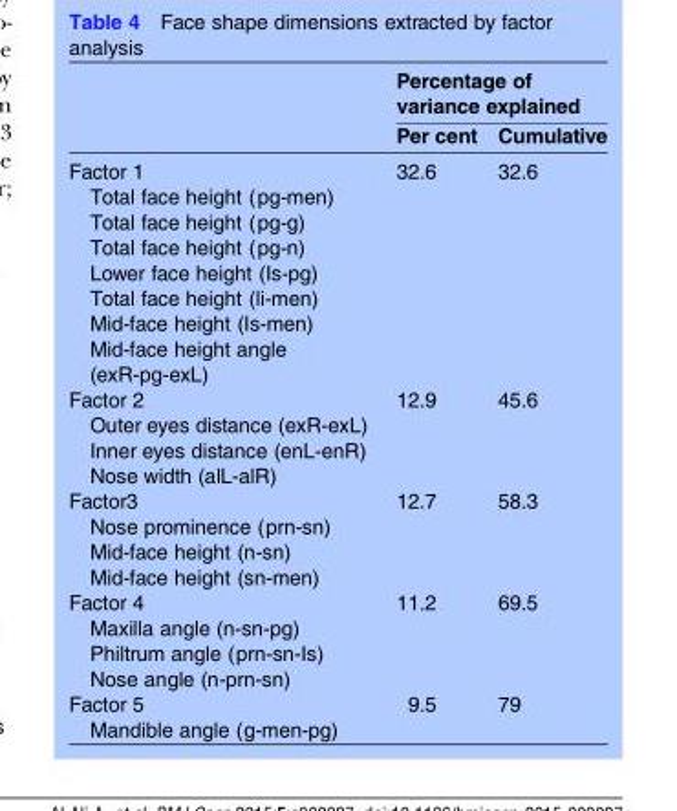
<table><thead><tr><td rowspan="2"></td><td colspan="2">Percentage of variance explained</td></tr><tr><td>Per cent</td><td>Cumulative</td></tr></thead><tbody><tr><td>Factor 1</td><td>32.6</td><td>32.6</td></tr><tr><td colspan="3">Total face height (pg-men)</td></tr><tr><td colspan="3">Total face height (pg-g)</td></tr><tr><td colspan="3">Total face height (pg-n)</td></tr><tr><td colspan="3">Lower face height (Is-pg)</td></tr><tr><td colspan="3">Total face height (li-men)</td></tr><tr><td colspan="3">Mid-face height (Is-men)</td></tr><tr><td colspan="3">Mid-face height angle (exR-pg-exL)</td></tr><tr><td>Factor 2</td><td>12.9</td><td>45.6</td></tr><tr><td colspan="3">Outer eyes distance (exR-exL)</td></tr><tr><td colspan="3">Inner eyes distance (enL-enR)</td></tr><tr><td colspan="3">Nose width (alL-alR)</td></tr><tr><td>Factor3</td><td>12.7</td><td>58.3</td></tr><tr><td colspan="3">Nose prominence (prn-sn)</td></tr><tr><td colspan="3">Mid-face height (n-sn)</td></tr><tr><td colspan="3">Mid-face height (sn-men)</td></tr><tr><td>Factor 4</td><td>11.2</td><td>69.5</td></tr><tr><td colspan="3">Maxilla angle (n-sn-pg)</td></tr><tr><td colspan="3">Philtrum angle (prn-sn-Is)</td></tr><tr><td colspan="3">Nose angle (n-prn-sn)</td></tr><tr><td>Factor 5</td><td>9.5</td><td>79</td></tr><tr><td>Mandible angle (g-men-pg)</td><td></td><td></td></tr></tbody></table>